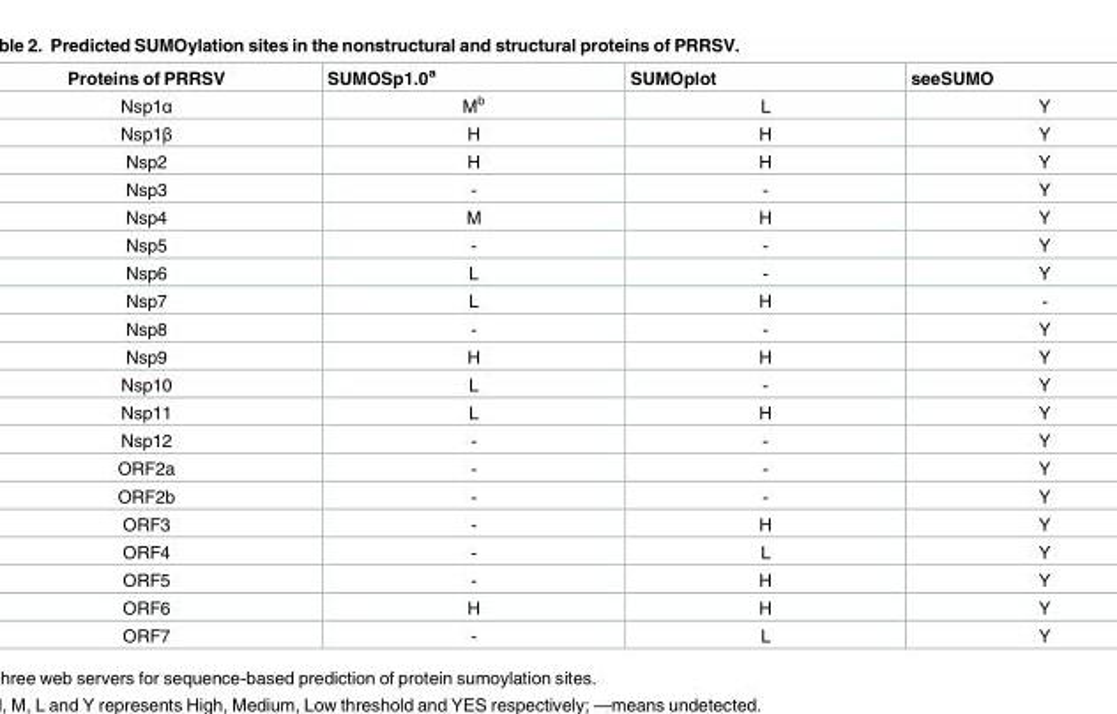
<table><thead><tr><td>Proteins of PRRSV</td><td>SUMOSp1.0<sup>a</sup></td><td>SUMOplot</td><td>seeSUMO</td></tr></thead><tbody><tr><td>Nsp1α</td><td>M<sup>b</sup></td><td>L</td><td>Y</td></tr><tr><td>Nsp1β</td><td>H</td><td>H</td><td>Y</td></tr><tr><td>Nsp2</td><td>H</td><td>H</td><td>Y</td></tr><tr><td>Nsp3</td><td>-</td><td>-</td><td>Y</td></tr><tr><td>Nsp4</td><td>M</td><td>H</td><td>Y</td></tr><tr><td>Nsp5</td><td>-</td><td>-</td><td>Y</td></tr><tr><td>Nsp6</td><td>L</td><td>-</td><td>Y</td></tr><tr><td>Nsp7</td><td>L</td><td>H</td><td>-</td></tr><tr><td>Nsp8</td><td>-</td><td>-</td><td>Y</td></tr><tr><td>Nsp9</td><td>H</td><td>H</td><td>Y</td></tr><tr><td>Nsp10</td><td>L</td><td>-</td><td>Y</td></tr><tr><td>Nsp11</td><td>L</td><td>H</td><td>Y</td></tr><tr><td>Nsp12</td><td>-</td><td>-</td><td>Y</td></tr><tr><td>ORF2a</td><td>-</td><td>-</td><td>Y</td></tr><tr><td>ORF2b</td><td>-</td><td>-</td><td>Y</td></tr><tr><td>ORF3</td><td>-</td><td>H</td><td>Y</td></tr><tr><td>ORF4</td><td>-</td><td>L</td><td>Y</td></tr><tr><td>ORF5</td><td>-</td><td>H</td><td>Y</td></tr><tr><td>ORF6</td><td>H</td><td>H</td><td>Y</td></tr><tr><td>ORF7</td><td>-</td><td>L</td><td>Y</td></tr></tbody></table>